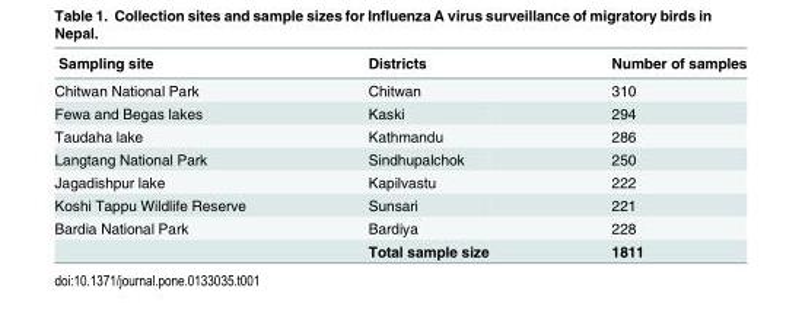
<table><thead><tr><td>Sampling site</td><td>Districts</td><td>Number of samples</td></tr></thead><tbody><tr><td>Chitwan National Park</td><td>Chitwan</td><td>310</td></tr><tr><td>Fewa and Begas lakes</td><td>Kaski</td><td>294</td></tr><tr><td>Taudaha lake</td><td>Kathmandu</td><td>286</td></tr><tr><td>Langtang National Park</td><td>Sindhupalchok</td><td>250</td></tr><tr><td>Jagadishpur lake</td><td>Kapilvastu</td><td>222</td></tr><tr><td>Koshi Tappu Wildlife Reserve</td><td>Sunsari</td><td>221</td></tr><tr><td rowspan="2">Bardia National Park</td><td>Bardiya</td><td>228</td></tr><tr><td>Total sample size</td><td>1811</td></tr></tbody></table>